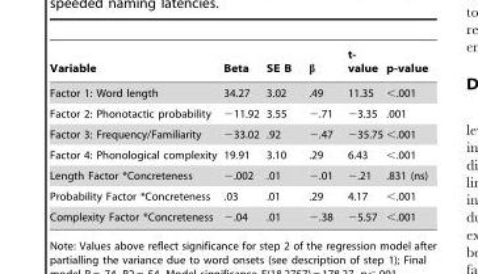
<table><thead><tr><td>Variable</td><td>Beta</td><td>SE B</td><td>b</td><td>t- value</td><td>p-value</td></tr></thead><tbody><tr><td>Factor 1: Word length</td><td>34.27</td><td>3.02</td><td>.49</td><td>11.35</td><td>&lt;.001</td></tr><tr><td>Factor 2: Phonotactic probability</td><td>−11.92</td><td>3.55</td><td>−.71</td><td>−3.35</td><td>.001</td></tr><tr><td>Factor 3: Frequency/Familiarity</td><td>−33.02</td><td>.92</td><td>−.47</td><td>−35.75</td><td>&lt;.001</td></tr><tr><td>Factor 4: Phonological complexity</td><td>19.91</td><td>3.10</td><td>.29</td><td>6.43</td><td>&lt;.001</td></tr><tr><td>Length Factor *Concreteness</td><td>−.002</td><td>.01</td><td>−.01</td><td>−.21</td><td>.831 (ns)</td></tr><tr><td>Probability Factor *Concreteness</td><td>.03</td><td>.01</td><td>.29</td><td>4.17</td><td>&lt;.001</td></tr><tr><td>Complexity Factor *Concreteness</td><td>−.04</td><td>.01</td><td>−.38</td><td>−5.57</td><td>&lt;.001</td></tr></tbody></table>